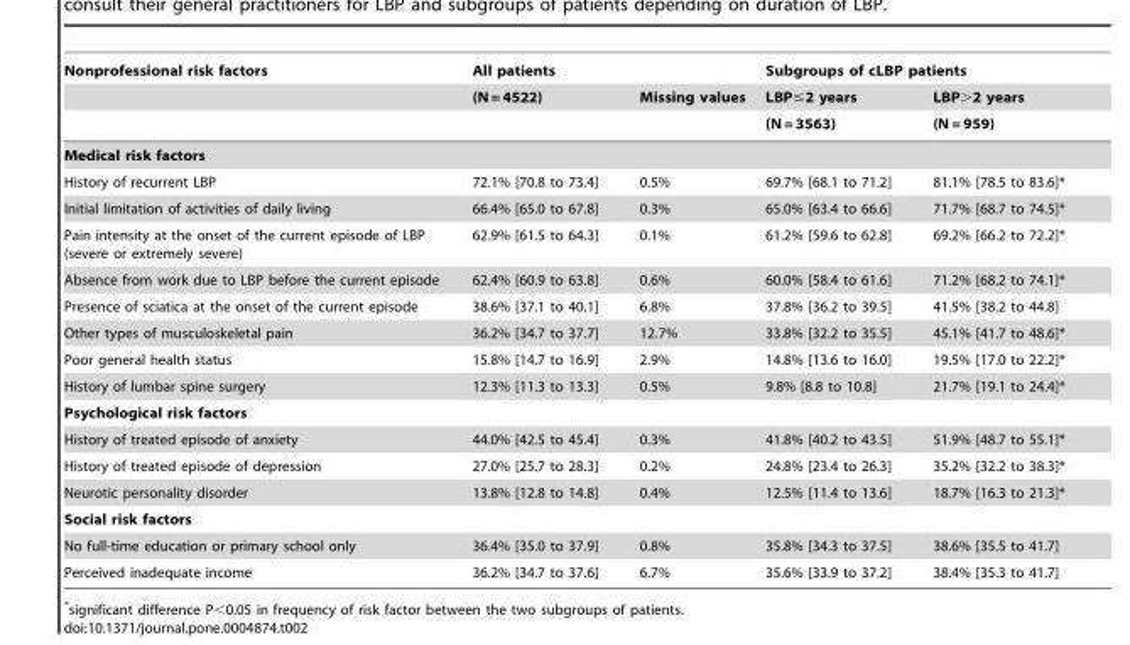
<table><thead><tr><td rowspan="3">Nonprofessional risk factors</td><td colspan="2">All patients</td><td colspan="2">Subgroups of cLBP patients</td></tr><tr><td rowspan="2">(N = 4522)</td><td rowspan="2">Missing values</td><td rowspan="2">LBP≤2 years (N = 3563)</td><td rowspan="2">LBP&gt;2 years (N = 959)</td></tr><tr></tr></thead><tbody><tr><td colspan="5">Medical risk factors</td></tr><tr><td>History of recurrent LBP</td><td>72.1% [70.8 to 73.4]</td><td>0.5%</td><td>69.7% [68.1 to 71.2]</td><td>81.1% [78.5 to 83.6]*</td></tr><tr><td>Initial limitation of activities of daily living</td><td>66.4% [65.0 to 67.8]</td><td>0.3%</td><td>65.0% [63.4 to 66.6]</td><td>71.7% [68.7 to 74.5]*</td></tr><tr><td>Pain intensity at the onset of the current episode of LBP (severe or extremely severe)</td><td>62.9% [61.5 to 64.3]</td><td>0.1%</td><td>61.2% [59.6 to 62.8]</td><td>69.2% [66.2 to 72.2]*</td></tr><tr><td>Absence from work due to LBP before the current episode</td><td>62.4% [60.9 to 63.8]</td><td>0.6%</td><td>60.0% [58.4 to 61.6]</td><td>71.2% [68.2 to 74.1]*</td></tr><tr><td>Presence of sciatica at the onset of the current episode</td><td>38.6% [37.1 to 40.1]</td><td>6.8%</td><td>37.8% [36.2 to 39.5]</td><td>41.5% [38.2 to 44.8]</td></tr><tr><td>Other types of musculoskeletal pain</td><td>36.2% [34.7 to 37.7]</td><td>12.7%</td><td>33.8% [32.2 to 35.5]</td><td>45.1% [41.7 to 48.6]*</td></tr><tr><td>Poor general health status</td><td>15.8% [14.7 to 16.9]</td><td>2.9%</td><td>14.8% [13.6 to 16.0]</td><td>19.5% [17.0 to 22.2]*</td></tr><tr><td>History of lumbar spine surgery</td><td>12.3% [11.3 to 13.3]</td><td>0.5%</td><td>9.8% [8.8 to 10.8]</td><td>21.7% [19.1 to 24.4]*</td></tr><tr><td colspan="5">Psychological risk factors</td></tr><tr><td>History of treated episode of anxiety</td><td>44.0% [42.5 to 45.4]</td><td>0.3%</td><td>41.8% [40.2 to 43.5]</td><td>51.9% [48.7 to 55.1]*</td></tr><tr><td>History of treated episode of depression</td><td>27.0% [25.7 to 28.3]</td><td>0.2%</td><td>24.8% [23.4 to 26.3]</td><td>35.2% [32.2 to 38.3]*</td></tr><tr><td>Neurotic personality disorder</td><td>13.8% [12.8 to 14.8]</td><td>0.4%</td><td>12.5% [11.4 to 13.6]</td><td>18.7% [16.3 to 21.3]*</td></tr><tr><td colspan="5">Social risk factors</td></tr><tr><td>No full-time education or primary school only</td><td>36.4% [35.0 to 37.9]</td><td>0.8%</td><td>35.8% [34.3 to 37.5]</td><td>38.6% [35.5 to 41.7]</td></tr><tr><td>Perceived inadequate income</td><td>36.2% [34.7 to 37.6]</td><td>6.7%</td><td>35.6% [33.9 to 37.2]</td><td>38.4% [35.3 to 41.7]</td></tr></tbody></table>